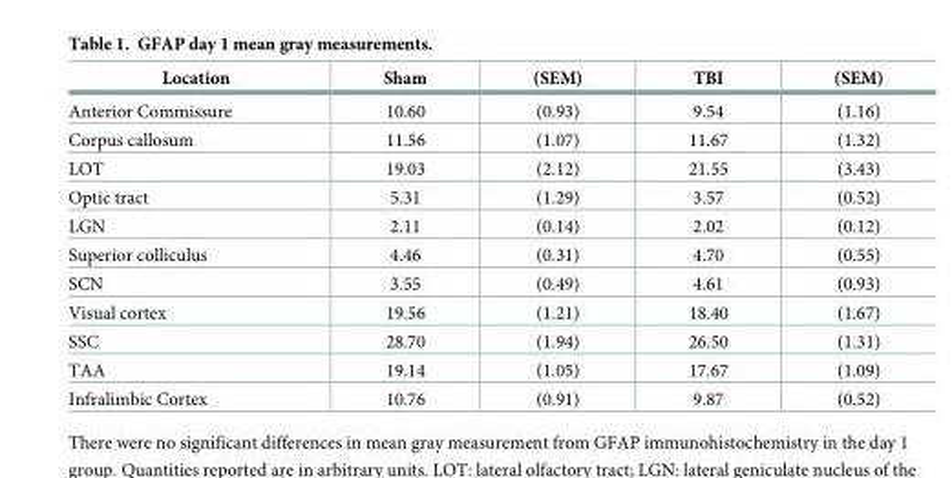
<table><thead><tr><td>Location</td><td>Sham</td><td>(SEM)</td><td>TBI</td><td>(SEM)</td></tr></thead><tbody><tr><td>Anterior Commissure</td><td>10.60</td><td>(0.93)</td><td>9.54</td><td>(1.16)</td></tr><tr><td>Corpus callosum</td><td>11.56</td><td>(1.07)</td><td>11.67</td><td>(1.32)</td></tr><tr><td>LOT</td><td>19.03</td><td>(2.12)</td><td>21.55</td><td>(3.43)</td></tr><tr><td>Optic tract</td><td>5.31</td><td>(1.29)</td><td>3.57</td><td>(0.52)</td></tr><tr><td>LGN</td><td>2.11</td><td>(0.14)</td><td>2.02</td><td>(0.12)</td></tr><tr><td>Superior colliculus</td><td>4.46</td><td>(0.31)</td><td>4.70</td><td>(0.55)</td></tr><tr><td>SCN</td><td>3.55</td><td>(0.49)</td><td>4.61</td><td>(0.93)</td></tr><tr><td>Visual cortex</td><td>19.56</td><td>(1.21)</td><td>18.40</td><td>(1.67)</td></tr><tr><td>SSC</td><td>28.70</td><td>(1.94)</td><td>26.50</td><td>(1.31)</td></tr><tr><td>TAA</td><td>19.14</td><td>(1.05)</td><td>17.67</td><td>(1.09)</td></tr><tr><td>Infralimbic Cortex</td><td>10.76</td><td>(0.91)</td><td>9.87</td><td>(0.52)</td></tr></tbody></table>